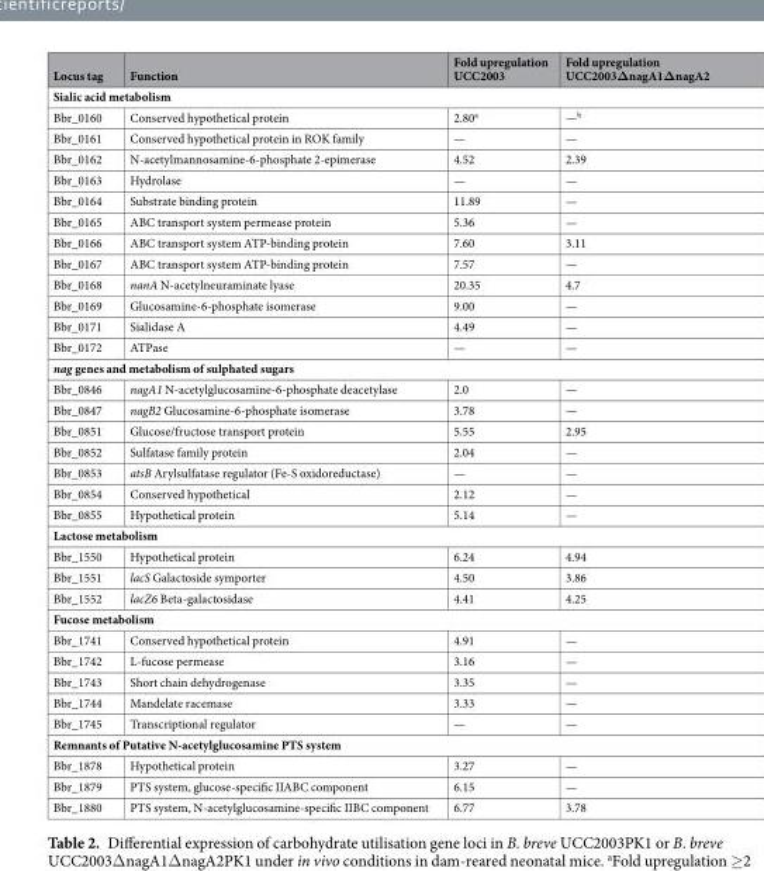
<table><thead><tr><td>Locus tag</td><td>Function</td><td>Fold upregulation UCC2003</td><td>Fold upregulation UCC2003ΔnagA1ΔnagA2</td></tr></thead><tbody><tr><td colspan="4">Sialic acid metabolism</td></tr><tr><td>Bbr_0160</td><td>Conserved hypothetical protein</td><td>2.80<sup>a</sup></td><td>—<sup>b</sup></td></tr><tr><td>Bbr_0161</td><td>Conserved hypothetical protein in ROK family</td><td>—</td><td>—</td></tr><tr><td>Bbr_0162</td><td>N-acetylmannosamine-6-phosphate 2-epimerase</td><td>4.52</td><td>2.39</td></tr><tr><td>Bbr_0163</td><td>Hydrolase</td><td>—</td><td>—</td></tr><tr><td>Bbr_0164</td><td>Substrate binding protein</td><td>11.89</td><td>—</td></tr><tr><td>Bbr_0165</td><td>ABC transport system permease protein</td><td>5.36</td><td>—</td></tr><tr><td>Bbr_0166</td><td>ABC transport system ATP-binding protein</td><td>7.60</td><td>3.11</td></tr><tr><td>Bbr_0167</td><td>ABC transport system ATP-binding protein</td><td>7.57</td><td>—</td></tr><tr><td>Bbr_0168</td><td>nanA N-acetylneuraminate lyase</td><td>20.35</td><td>4.7</td></tr><tr><td>Bbr_0169</td><td>Glucosamine-6-phosphate isomerase</td><td>9.00</td><td>—</td></tr><tr><td>Bbr_0171</td><td>Sialidase A</td><td>4.49</td><td>—</td></tr><tr><td>Bbr_0172</td><td>ATPase</td><td>—</td><td>—</td></tr><tr><td colspan="4">nag genes and metabolism of sulphated sugars</td></tr><tr><td>Bbr_0846</td><td>nagA1 N-acetylglucosamine-6-phosphate deacetylase</td><td>2.0</td><td>—</td></tr><tr><td>Bbr_0847</td><td>nagB2 Glucosamine-6-phosphate isomerase</td><td>3.78</td><td>—</td></tr><tr><td>Bbr_0851</td><td>Glucose/fructose transport protein</td><td>5.55</td><td>2.95</td></tr><tr><td>Bbr_0852</td><td>Sulfatase family protein</td><td>2.04</td><td>—</td></tr><tr><td>Bbr_0853</td><td>atsB Arylsulfatase regulator (Fe-S oxidoreductase)</td><td>—</td><td>—</td></tr><tr><td>Bbr_0854</td><td>Conserved hypothetical</td><td>2.12</td><td>—</td></tr><tr><td>Bbr_0855</td><td>Hypothetical protein</td><td>5.14</td><td>—</td></tr><tr><td colspan="4">Lactose metabolism</td></tr><tr><td>Bbr_1550</td><td>Hypothetical protein</td><td>6.24</td><td>4.94</td></tr><tr><td>Bbr_1551</td><td>lacS Galactoside symporter</td><td>4.50</td><td>3.86</td></tr><tr><td>Bbr_1552</td><td>lacZ6 Beta-galactosidase</td><td>4.41</td><td>4.25</td></tr><tr><td colspan="4">Fucose metabolism</td></tr><tr><td>Bbr_1741</td><td>Conserved hypothetical protein</td><td>4.91</td><td>—</td></tr><tr><td>Bbr_1742</td><td>L-fucose permease</td><td>3.16</td><td>—</td></tr><tr><td>Bbr_1743</td><td>Short chain dehydrogenase</td><td>3.35</td><td>—</td></tr><tr><td>Bbr_1744</td><td>Mandelate racemase</td><td>3.33</td><td>—</td></tr><tr><td>Bbr_1745</td><td>Transcriptional regulator</td><td>—</td><td>—</td></tr><tr><td colspan="4">Remnants of Putative N-acetylglucosamine PTS system</td></tr><tr><td>Bbr_1878</td><td>Hypothetical protein</td><td>3.27</td><td>—</td></tr><tr><td>Bbr_1879</td><td>PTS system, glucose-specific IIABC component</td><td>6.15</td><td>—</td></tr><tr><td>Bbr_1880</td><td>PTS system, N-acetylglucosamine-specific IIBC component</td><td>6.77</td><td>3.78</td></tr></tbody></table>